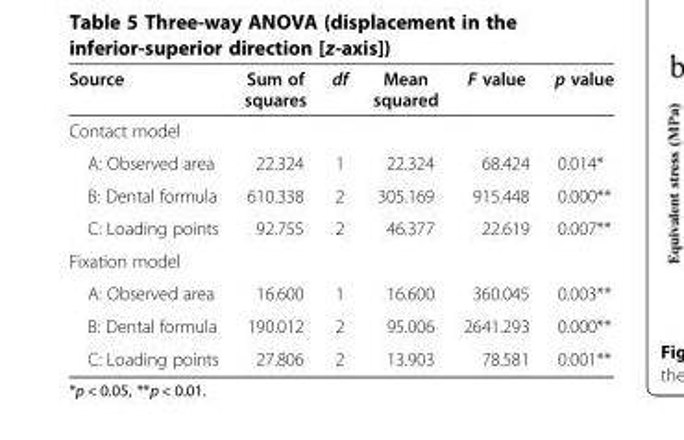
<table><thead><tr><td>Source</td><td>Sum of squares</td><td>df</td><td>Mean squared</td><td>F value</td><td>p value</td></tr></thead><tbody><tr><td colspan="6">Contact model</td></tr><tr><td>A: Observed area</td><td>22.324</td><td>1</td><td>22.324</td><td>68.424</td><td>0.014*</td></tr><tr><td>B: Dental formula</td><td>610.338</td><td>2</td><td>305.169</td><td>915.448</td><td>0.000**</td></tr><tr><td>C: Loading points</td><td>92.755</td><td>2</td><td>46.377</td><td>22.619</td><td>0.007**</td></tr><tr><td colspan="6">Fixation model</td></tr><tr><td>A: Observed area</td><td>16.600</td><td>1</td><td>16.600</td><td>360.045</td><td>0.003**</td></tr><tr><td>B: Dental formula</td><td>190.012</td><td>2</td><td>95.006</td><td>2641.293</td><td>0.000**</td></tr><tr><td>C: Loading points</td><td>27.806</td><td>2</td><td>13.903</td><td>78.581</td><td>0.001**</td></tr></tbody></table>